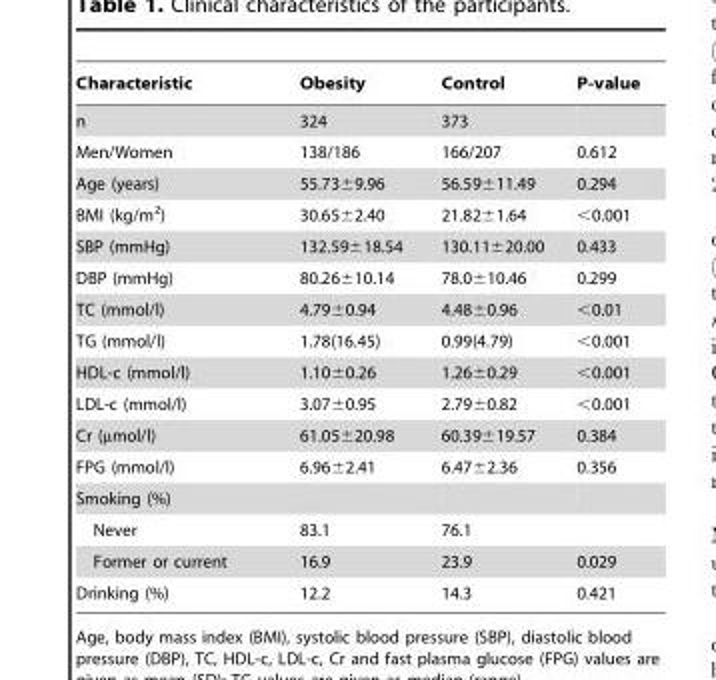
<table><thead><tr><td>Characteristic</td><td>Obesity</td><td>Control</td><td>P-value</td></tr></thead><tbody><tr><td>n</td><td>324</td><td>373</td><td></td></tr><tr><td>Men/Women</td><td>138/186</td><td>166/207</td><td>0.612</td></tr><tr><td>Age (years)</td><td>55.73±9.96</td><td>56.59±11.49</td><td>0.294</td></tr><tr><td>BMI (kg/m<sup>2</sup>)</td><td>30.65±2.40</td><td>21.82±1.64</td><td>&lt;0.001</td></tr><tr><td>SBP (mmHg)</td><td>132.59±18.54</td><td>130.11±20.00</td><td>0.433</td></tr><tr><td>DBP (mmHg)</td><td>80.26±10.14</td><td>78.0±10.46</td><td>0.299</td></tr><tr><td>TC (mmol/l)</td><td>4.79±0.94</td><td>4.48±0.96</td><td>&lt;0.01</td></tr><tr><td>TG (mmol/l)</td><td>1.78(16.45)</td><td>0.99(4.79)</td><td>&lt;0.001</td></tr><tr><td>HDL-c (mmol/l)</td><td>1.10±0.26</td><td>1.26±0.29</td><td>&lt;0.001</td></tr><tr><td>LDL-c (mmol/l)</td><td>3.07±0.95</td><td>2.79±0.82</td><td>&lt;0.001</td></tr><tr><td>Cr (µmol/l)</td><td>61.05±20.98</td><td>60.39±19.57</td><td>0.384</td></tr><tr><td>FPG (mmol/l)</td><td>6.96±2.41</td><td>6.47±2.36</td><td>0.356</td></tr><tr><td colspan="4">Smoking (%)</td></tr><tr><td>Never</td><td>83.1</td><td>76.1</td><td></td></tr><tr><td>Former or current</td><td>16.9</td><td>23.9</td><td>0.029</td></tr><tr><td>Drinking (%)</td><td>12.2</td><td>14.3</td><td>0.421</td></tr></tbody></table>